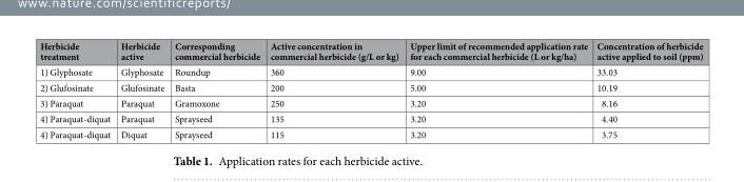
<table><thead><tr><td>Herbicide treatment</td><td>Herbicide active</td><td>Corresponding commercial herbicide</td><td>Active concentration in commercial herbicide (g/L or kg)</td><td>Upper limit of recommended application rate for each commercial herbicide (L or kg/ha)</td><td>Concentration of herbicide active applied to soil (ppm)</td></tr></thead><tbody><tr><td>1) Glyphosate</td><td>Glyphosate</td><td>Roundup</td><td>360</td><td>9.00</td><td>33.03</td></tr><tr><td>2) Glufosinate</td><td>Glufosinate</td><td>Basta</td><td>200</td><td>5.00</td><td>10.19</td></tr><tr><td>3) Paraquat</td><td>Paraquat</td><td>Gramoxone</td><td>250</td><td>3.20</td><td>8.16</td></tr><tr><td>4) Paraquat-diquat</td><td>Paraquat</td><td>Sprayseed</td><td>135</td><td>3.20</td><td>4.40</td></tr><tr><td>4) Paraquat-diquat</td><td>Diquat</td><td>Sprayseed</td><td>115</td><td>3.20</td><td>3.75</td></tr></tbody></table>